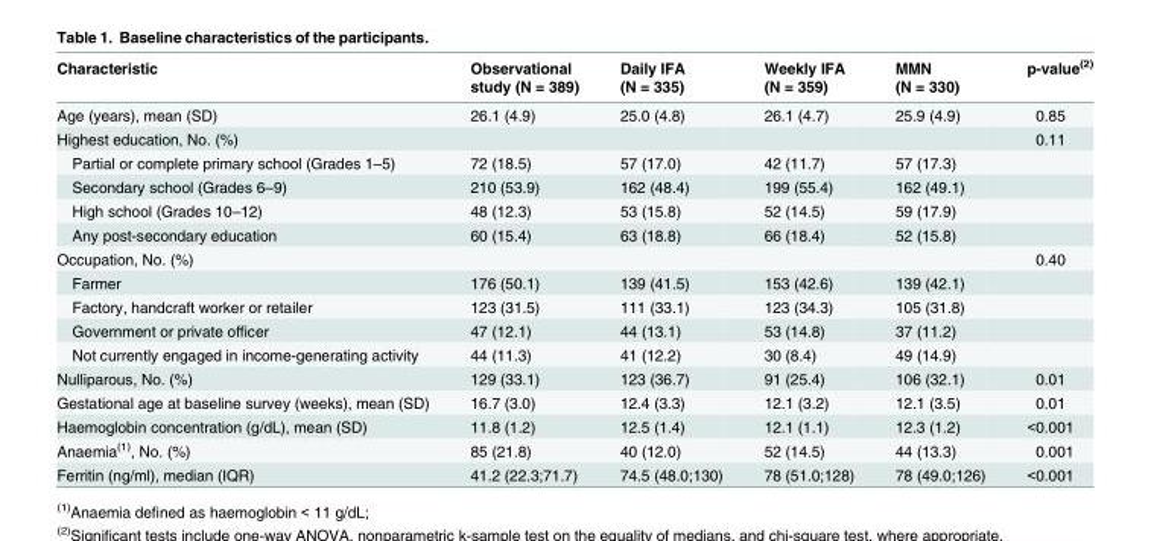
<table><thead><tr><td>Characteristic</td><td>Observational study (N = 389)</td><td>Daily IFA (N = 335)</td><td>Weekly IFA (N = 359)</td><td>MMN (N = 330)</td><td>p-value<sup>(2)</sup></td></tr></thead><tbody><tr><td>Age (years), mean (SD)</td><td>26.1 (4.9)</td><td>25.0 (4.8)</td><td>26.1 (4.7)</td><td>25.9 (4.9)</td><td>0.85</td></tr><tr><td>Highest education, No. (%)</td><td></td><td></td><td></td><td></td><td>0.11</td></tr><tr><td>Partial or complete primary school (Grades 1–5)</td><td>72 (18.5)</td><td>57 (17.0)</td><td>42 (11.7)</td><td>57 (17.3)</td><td></td></tr><tr><td>Secondary school (Grades 6–9)</td><td>210 (53.9)</td><td>162 (48.4)</td><td>199 (55.4)</td><td>162 (49.1)</td><td></td></tr><tr><td>High school (Grades 10–12)</td><td>48 (12.3)</td><td>53 (15.8)</td><td>52 (14.5)</td><td>59 (17.9)</td><td></td></tr><tr><td>Any post-secondary education</td><td>60 (15.4)</td><td>63 (18.8)</td><td>66 (18.4)</td><td>52 (15.8)</td><td></td></tr><tr><td>Occupation, No. (%)</td><td></td><td></td><td></td><td></td><td>0.40</td></tr><tr><td>Farmer</td><td>176 (50.1)</td><td>139 (41.5)</td><td>153 (42.6)</td><td>139 (42.1)</td><td></td></tr><tr><td>Factory, handcraft worker or retailer</td><td>123 (31.5)</td><td>111 (33.1)</td><td>123 (34.3)</td><td>105 (31.8)</td><td></td></tr><tr><td>Government or private officer</td><td>47 (12.1)</td><td>44 (13.1)</td><td>53 (14.8)</td><td>37 (11.2)</td><td></td></tr><tr><td>Not currently engaged in income-generating activity</td><td>44 (11.3)</td><td>41 (12.2)</td><td>30 (8.4)</td><td>49 (14.9)</td><td></td></tr><tr><td>Nulliparous, No. (%)</td><td>129 (33.1)</td><td>123 (36.7)</td><td>91 (25.4)</td><td>106 (32.1)</td><td>0.01</td></tr><tr><td>Gestational age at baseline survey (weeks), mean (SD)</td><td>16.7 (3.0)</td><td>12.4 (3.3)</td><td>12.1 (3.2)</td><td>12.1 (3.5)</td><td>0.01</td></tr><tr><td>Haemoglobin concentration (g/dL), mean (SD)</td><td>11.8 (1.2)</td><td>12.5 (1.4)</td><td>12.1 (1.1)</td><td>12.3 (1.2)</td><td>&lt;0.001</td></tr><tr><td>Anaemia<sup>(1)</sup>, No. (%)</td><td>85 (21.8)</td><td>40 (12.0)</td><td>52 (14.5)</td><td>44 (13.3)</td><td>0.001</td></tr><tr><td>Ferritin (ng/ml), median (IQR)</td><td>41.2 (22.3;71.7)</td><td>74.5 (48.0;130)</td><td>78 (51.0;128)</td><td>78 (49.0;126)</td><td>&lt;0.001</td></tr></tbody></table>